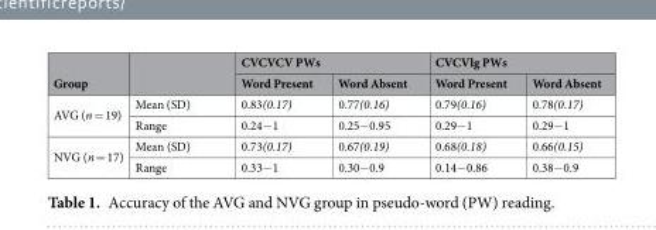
<table><thead><tr><td rowspan="2">Group</td><td rowspan="2"></td><td colspan="2">CVCVCV PWs</td><td colspan="2">CVCVlg PWs</td></tr><tr><td>Word Present</td><td>Word Absent</td><td>Word Present</td><td>Word Absent</td></tr></thead><tbody><tr><td rowspan="2">AVG (n = 19)</td><td>Mean (SD)</td><td>0.83(0.17)</td><td>0.77(0.16)</td><td>0.79(0.16)</td><td>0.78(0.17)</td></tr><tr><td>Range</td><td>0.24−1</td><td>0.25−0.95</td><td>0.29−1</td><td>0.29−1</td></tr><tr><td rowspan="2">NVG (n = 17)</td><td>Mean (SD)</td><td>0.73(0.17)</td><td>0.67(0.19)</td><td>0.68(0.18)</td><td>0.66(0.15)</td></tr><tr><td>Range</td><td>0.33−1</td><td>0.30−0.9</td><td>0.14−0.86</td><td>0.38−0.9</td></tr></tbody></table>